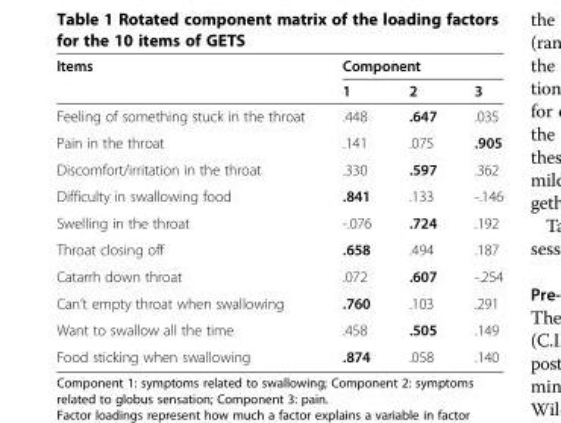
<table><thead><tr><td rowspan="2">Items</td><td colspan="3">Component</td></tr><tr><td>1</td><td>2</td><td>3</td></tr></thead><tbody><tr><td>Feeling of something stuck in the throat</td><td>.448</td><td>.647</td><td>.035</td></tr><tr><td>Pain in the throat</td><td>.141</td><td>.075</td><td>.905</td></tr><tr><td>Discomfort/irritation in the throat</td><td>.330</td><td>.597</td><td>.362</td></tr><tr><td>Difficulty in swallowing food</td><td>.841</td><td>.133</td><td>-.146</td></tr><tr><td>Swelling in the throat</td><td>-.076</td><td>.724</td><td>.192</td></tr><tr><td>Throat closing off</td><td>.658</td><td>.494</td><td>.187</td></tr><tr><td>Catarrh down throat</td><td>.072</td><td>.607</td><td>-.254</td></tr><tr><td>Can’t empty throat when swallowing</td><td>.760</td><td>.103</td><td>.291</td></tr><tr><td>Want to swallow all the time</td><td>.458</td><td>.505</td><td>.149</td></tr><tr><td>Food sticking when swallowing</td><td>.874</td><td>.058</td><td>.140</td></tr></tbody></table>